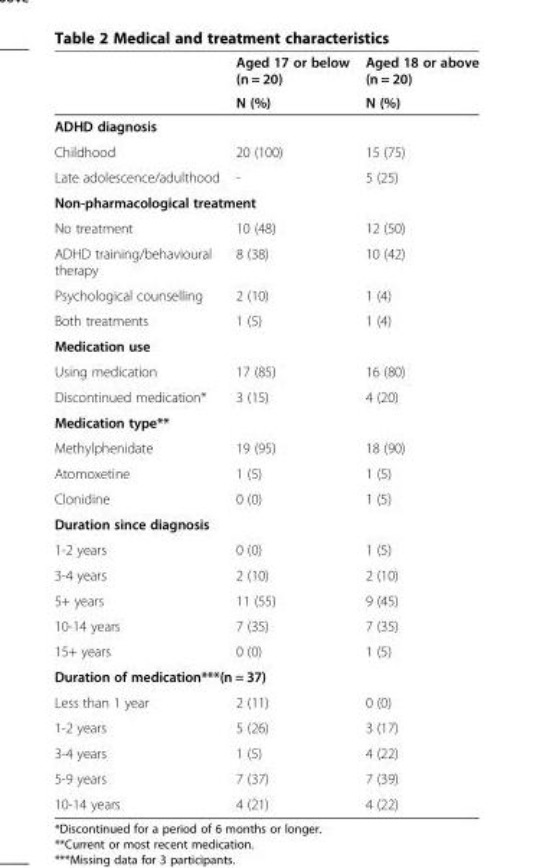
<table><thead><tr><td rowspan="2"></td><td rowspan="2">Aged 17 or below (n = 20) N (%)</td><td rowspan="2">Aged 18 or above (n = 20) N (%)</td></tr><tr></tr></thead><tbody><tr><td colspan="3">ADHD diagnosis</td></tr><tr><td>Childhood</td><td>20 (100)</td><td>15 (75)</td></tr><tr><td>Late adolescence/adulthood</td><td>-</td><td>5 (25)</td></tr><tr><td colspan="3">Non-pharmacological treatment</td></tr><tr><td>No treatment</td><td>10 (48)</td><td>12 (50)</td></tr><tr><td>ADHD training/behavioural therapy</td><td>8 (38)</td><td>10 (42)</td></tr><tr><td>Psychological counselling</td><td>2 (10)</td><td>1 (4)</td></tr><tr><td>Both treatments</td><td>1 (5)</td><td>1 (4)</td></tr><tr><td colspan="3">Medication use</td></tr><tr><td>Using medication</td><td>17 (85)</td><td>16 (80)</td></tr><tr><td>Discontinued medication*</td><td>3 (15)</td><td>4 (20)</td></tr><tr><td colspan="3">Medication type**</td></tr><tr><td>Methylphenidate</td><td>19 (95)</td><td>18 (90)</td></tr><tr><td>Atomoxetine</td><td>1 (5)</td><td>1 (5)</td></tr><tr><td>Clonidine</td><td>0 (0)</td><td>1 (5)</td></tr><tr><td colspan="3">Duration since diagnosis</td></tr><tr><td>1-2 years</td><td>0 (0)</td><td>1 (5)</td></tr><tr><td>3-4 years</td><td>2 (10)</td><td>2 (10)</td></tr><tr><td>5+ years</td><td>11 (55)</td><td>9 (45)</td></tr><tr><td>10-14 years</td><td>7 (35)</td><td>7 (35)</td></tr><tr><td>15+ years</td><td>0 (0)</td><td>1 (5)</td></tr><tr><td colspan="3">Duration of medication***(n = 37)</td></tr><tr><td>Less than 1 year</td><td>2 (11)</td><td>0 (0)</td></tr><tr><td>1-2 years</td><td>5 (26)</td><td>3 (17)</td></tr><tr><td>3-4 years</td><td>1 (5)</td><td>4 (22)</td></tr><tr><td>5-9 years</td><td>7 (37)</td><td>7 (39)</td></tr><tr><td>10-14 years</td><td>4 (21)</td><td>4 (22)</td></tr></tbody></table>